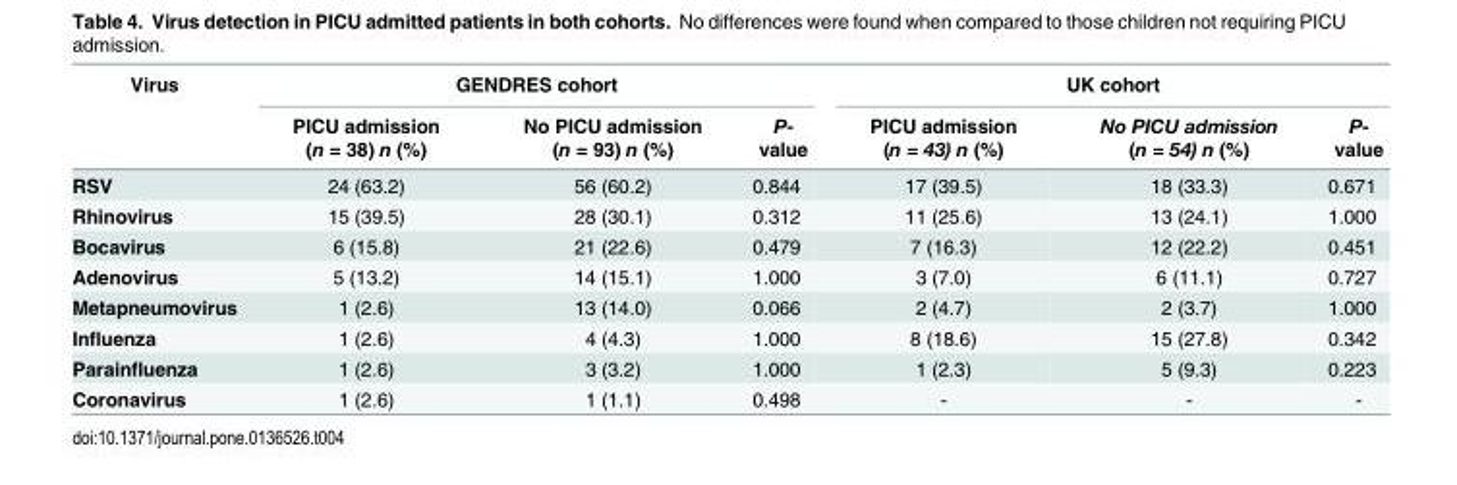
<table><thead><tr><td rowspan="2">Virus</td><td colspan="3">GENDRES cohort</td><td colspan="3">UK cohort</td></tr><tr><td>PICU admission (n = 38) n (%)</td><td>No PICU admission (n = 93) n (%)</td><td>P- value</td><td>PICU admission (n = 43) n (%)</td><td>No PICU admission (n = 54) n (%)</td><td>P- value</td></tr></thead><tbody><tr><td>RSV</td><td>24 (63.2)</td><td>56 (60.2)</td><td>0.844</td><td>17 (39.5)</td><td>18 (33.3)</td><td>0.671</td></tr><tr><td>Rhinovirus</td><td>15 (39.5)</td><td>28 (30.1)</td><td>0.312</td><td>11 (25.6)</td><td>13 (24.1)</td><td>1.000</td></tr><tr><td>Bocavirus</td><td>6 (15.8)</td><td>21 (22.6)</td><td>0.479</td><td>7 (16.3)</td><td>12 (22.2)</td><td>0.451</td></tr><tr><td>Adenovirus</td><td>5 (13.2)</td><td>14 (15.1)</td><td>1.000</td><td>3 (7.0)</td><td>6 (11.1)</td><td>0.727</td></tr><tr><td>Metapneumovirus</td><td>1 (2.6)</td><td>13 (14.0)</td><td>0.066</td><td>2 (4.7)</td><td>2 (3.7)</td><td>1.000</td></tr><tr><td>Influenza</td><td>1 (2.6)</td><td>4 (4.3)</td><td>1.000</td><td>8 (18.6)</td><td>15 (27.8)</td><td>0.342</td></tr><tr><td>Parainfluenza</td><td>1 (2.6)</td><td>3 (3.2)</td><td>1.000</td><td>1 (2.3)</td><td>5 (9.3)</td><td>0.223</td></tr><tr><td>Coronavirus</td><td>1 (2.6)</td><td>1 (1.1)</td><td>0.498</td><td>-</td><td>-</td><td>-</td></tr></tbody></table>